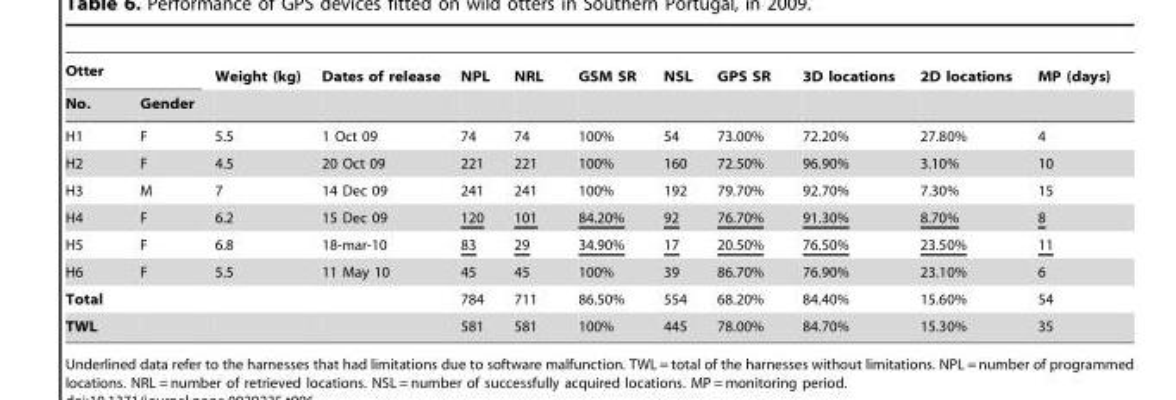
<table><thead><tr><td colspan="2">Otter</td><td rowspan="2">Weight (kg)</td><td rowspan="2">Dates of release</td><td rowspan="2">NPL</td><td rowspan="2">NRL</td><td rowspan="2">GSM SR</td><td rowspan="2">NSL</td><td rowspan="2">GPS SR</td><td rowspan="2">3D locations</td><td rowspan="2">2D locations</td><td rowspan="2">MP (days)</td></tr><tr><td>No.</td><td>Gender</td></tr></thead><tbody><tr><td>H1</td><td>F</td><td>5.5</td><td>1 Oct 09</td><td>74</td><td>74</td><td>100%</td><td>54</td><td>73.00%</td><td>72.20%</td><td>27.80%</td><td>4</td></tr><tr><td>H2</td><td>F</td><td>4.5</td><td>20 Oct 09</td><td>221</td><td>221</td><td>100%</td><td>160</td><td>72.50%</td><td>96.90%</td><td>3.10%</td><td>10</td></tr><tr><td>H3</td><td>M</td><td>7</td><td>14 Dec 09</td><td>241</td><td>241</td><td>100%</td><td>192</td><td>79.70%</td><td>92.70%</td><td>7.30%</td><td>15</td></tr><tr><td>H4</td><td>F</td><td>6.2</td><td>15 Dec 09</td><td>120</td><td>101</td><td>84.20%</td><td>92</td><td>76.70%</td><td>91.30%</td><td>8.70%</td><td>8</td></tr><tr><td>H5</td><td>F</td><td>6.8</td><td>18-mar-10</td><td>83</td><td>29</td><td>34.90%</td><td>17</td><td>20.50%</td><td>76.50%</td><td>23.50%</td><td>11</td></tr><tr><td>H6</td><td>F</td><td>5.5</td><td>11 May 10</td><td>45</td><td>45</td><td>100%</td><td>39</td><td>86.70%</td><td>76.90%</td><td>23.10%</td><td>6</td></tr><tr><td>Total</td><td></td><td></td><td></td><td>784</td><td>711</td><td>86.50%</td><td>554</td><td>68.20%</td><td>84.40%</td><td>15.60%</td><td>54</td></tr><tr><td>TWL</td><td></td><td></td><td></td><td>581</td><td>581</td><td>100%</td><td>445</td><td>78.00%</td><td>84.70%</td><td>15.30%</td><td>35</td></tr></tbody></table>